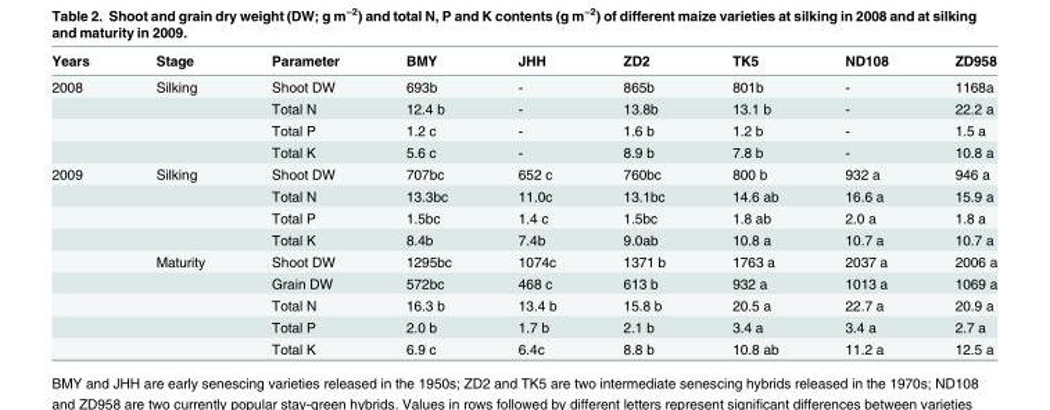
<table><thead><tr><td>Years</td><td>Stage</td><td>Parameter</td><td>BMY</td><td>JHH</td><td>ZD2</td><td>TK5</td><td>ND108</td><td>ZD958</td></tr></thead><tbody><tr><td rowspan="4">2008</td><td>Silking</td><td>Shoot DW</td><td>693b</td><td>-</td><td>865b</td><td>801b</td><td>-</td><td>1168a</td></tr><tr><td></td><td>Total N</td><td>12.4 b</td><td>-</td><td>13.8b</td><td>13.1 b</td><td>-</td><td>22.2 a</td></tr><tr><td></td><td>Total P</td><td>1.2 c</td><td>-</td><td>1.6 b</td><td>1.2 b</td><td>-</td><td>1.5 a</td></tr><tr><td></td><td>Total K</td><td>5.6 c</td><td>-</td><td>8.9 b</td><td>7.8 b</td><td>-</td><td>10.8 a</td></tr><tr><td rowspan="9">2009</td><td>Silking</td><td>Shoot DW</td><td>707bc</td><td>652 c</td><td>760bc</td><td>800 b</td><td>932 a</td><td>946 a</td></tr><tr><td></td><td>Total N</td><td>13.3bc</td><td>11.0c</td><td>13.1bc</td><td>14.6 ab</td><td>16.6 a</td><td>15.9 a</td></tr><tr><td></td><td>Total P</td><td>1.5bc</td><td>1.4 c</td><td>1.5bc</td><td>1.8 ab</td><td>2.0 a</td><td>1.8 a</td></tr><tr><td></td><td>Total K</td><td>8.4b</td><td>7.4b</td><td>9.0ab</td><td>10.8 a</td><td>10.7 a</td><td>10.7 a</td></tr><tr><td>Maturity</td><td>Shoot DW</td><td>1295bc</td><td>1074c</td><td>1371 b</td><td>1763 a</td><td>2037 a</td><td>2006 a</td></tr><tr><td></td><td>Grain DW</td><td>572bc</td><td>468 c</td><td>613 b</td><td>932 a</td><td>1013 a</td><td>1069 a</td></tr><tr><td></td><td>Total N</td><td>16.3 b</td><td>13.4 b</td><td>15.8 b</td><td>20.5 a</td><td>22.7 a</td><td>20.9 a</td></tr><tr><td></td><td>Total P</td><td>2.0 b</td><td>1.7 b</td><td>2.1 b</td><td>3.4 a</td><td>3.4 a</td><td>2.7 a</td></tr><tr><td></td><td>Total K</td><td>6.9 c</td><td>6.4c</td><td>8.8 b</td><td>10.8 ab</td><td>11.2 a</td><td>12.5 a</td></tr></tbody></table>